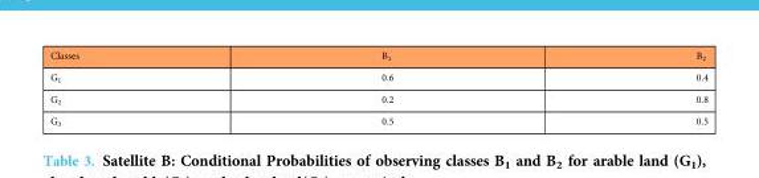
<table><thead><tr><td>Classes</td><td>B<sub>1</sub></td><td>B<sub>2</sub></td></tr></thead><tbody><tr><td>G<sub>1</sub></td><td>0.6</td><td>0.4</td></tr><tr><td>G<sub>2</sub></td><td>0.2</td><td>0.8</td></tr><tr><td>G<sub>3</sub></td><td>0.5</td><td>0.5</td></tr></tbody></table>